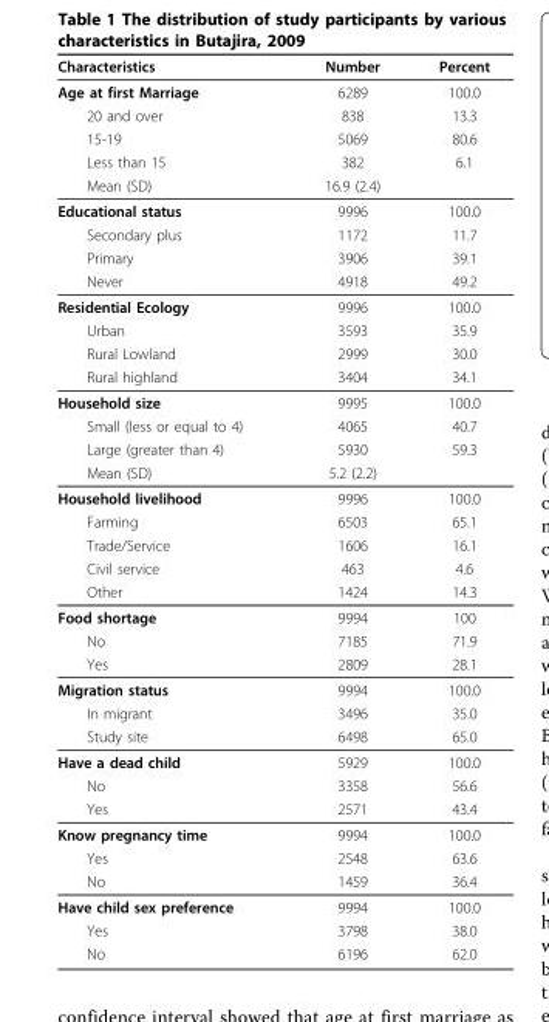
<table><thead><tr><td>Characteristics</td><td>Number</td><td>Percent</td></tr></thead><tbody><tr><td>Age at first Marriage</td><td>6289</td><td>100.0</td></tr><tr><td>20 and over</td><td>838</td><td>13.3</td></tr><tr><td>15-19</td><td>5069</td><td>80.6</td></tr><tr><td>Less than 15</td><td>382</td><td>6.1</td></tr><tr><td>Mean (SD)</td><td>16.9 (2.4)</td><td></td></tr><tr><td>Educational status</td><td>9996</td><td>100.0</td></tr><tr><td>Secondary plus</td><td>1172</td><td>11.7</td></tr><tr><td>Primary</td><td>3906</td><td>39.1</td></tr><tr><td>Never</td><td>4918</td><td>49.2</td></tr><tr><td>Residential Ecology</td><td>9996</td><td>100.0</td></tr><tr><td>Urban</td><td>3593</td><td>35.9</td></tr><tr><td>Rural Lowland</td><td>2999</td><td>30.0</td></tr><tr><td>Rural highland</td><td>3404</td><td>34.1</td></tr><tr><td>Household size</td><td>9995</td><td>100.0</td></tr><tr><td>Small (less or equal to 4)</td><td>4065</td><td>40.7</td></tr><tr><td>Large (greater than 4)</td><td>5930</td><td>59.3</td></tr><tr><td>Mean (SD)</td><td>5.2 (2.2)</td><td></td></tr><tr><td>Household livelihood</td><td>9996</td><td>100.0</td></tr><tr><td>Farming</td><td>6503</td><td>65.1</td></tr><tr><td>Trade/Service</td><td>1606</td><td>16.1</td></tr><tr><td>Civil service</td><td>463</td><td>4.6</td></tr><tr><td>Other</td><td>1424</td><td>14.3</td></tr><tr><td>Food shortage</td><td>9994</td><td>100</td></tr><tr><td>No</td><td>7185</td><td>71.9</td></tr><tr><td>Yes</td><td>2809</td><td>28.1</td></tr><tr><td>Migration status</td><td>9994</td><td>100.0</td></tr><tr><td>In migrant</td><td>3496</td><td>35.0</td></tr><tr><td>Study site</td><td>6498</td><td>65.0</td></tr><tr><td>Have a dead child</td><td>5929</td><td>100.0</td></tr><tr><td>No</td><td>3358</td><td>56.6</td></tr><tr><td>Yes</td><td>2571</td><td>43.4</td></tr><tr><td>Know pregnancy time</td><td>9994</td><td>100.0</td></tr><tr><td>Yes</td><td>2548</td><td>63.6</td></tr><tr><td>No</td><td>1459</td><td>36.4</td></tr><tr><td>Have child sex preference</td><td>9994</td><td>100.0</td></tr><tr><td>Yes</td><td>3798</td><td>38.0</td></tr><tr><td>No</td><td>6196</td><td>62.0</td></tr></tbody></table>